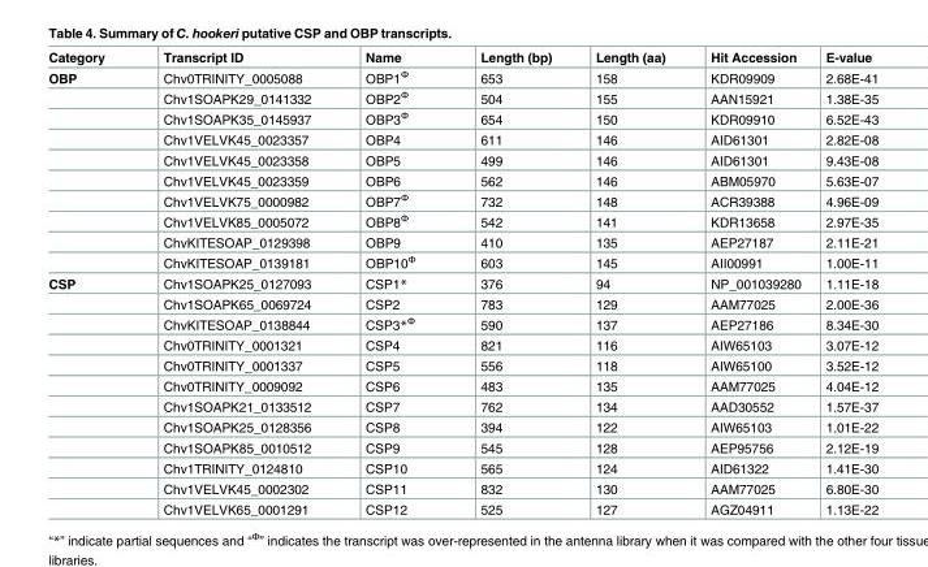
<table><thead><tr><td>Category</td><td>Transcript ID</td><td>Name</td><td>Length (bp)</td><td>Length (aa)</td><td>Hit Accession</td><td>E-value</td></tr></thead><tbody><tr><td rowspan="10">OBP</td><td>Chv0TRINITY_0005088</td><td>OBP1<sup>Φ</sup></td><td>653</td><td>158</td><td>KDR09909</td><td>2.68E-41</td></tr><tr><td>Chv1SOAPK29_0141332</td><td>OBP2<sup>Φ</sup></td><td>504</td><td>155</td><td>AAN15921</td><td>1.38E-35</td></tr><tr><td>Chv1SOAPK35_0145937</td><td>OBP3<sup>Φ</sup></td><td>654</td><td>150</td><td>KDR09910</td><td>6.52E-43</td></tr><tr><td>Chv1VELVK45_0023357</td><td>OBP4</td><td>611</td><td>146</td><td>AID61301</td><td>2.82E-08</td></tr><tr><td>Chv1VELVK45_0023358</td><td>OBP5</td><td>499</td><td>146</td><td>AID61301</td><td>9.43E-08</td></tr><tr><td>Chv1VELVK45_0023359</td><td>OBP6</td><td>562</td><td>146</td><td>ABM05970</td><td>5.63E-07</td></tr><tr><td>Chv1VELVK75_0000982</td><td>OBP7<sup>Φ</sup></td><td>732</td><td>148</td><td>ACR39388</td><td>4.96E-09</td></tr><tr><td>Chv1VELVK85_0005072</td><td>OBP8<sup>Φ</sup></td><td>542</td><td>141</td><td>KDR13658</td><td>2.97E-35</td></tr><tr><td>ChvKITESOAP_0129398</td><td>OBP9</td><td>410</td><td>135</td><td>AEP27187</td><td>2.11E-21</td></tr><tr><td>ChvKITESOAP_0139181</td><td>OBP10<sup>Φ</sup></td><td>603</td><td>145</td><td>AII00991</td><td>1.00E-11</td></tr><tr><td rowspan="12">CSP</td><td>Chv1SOAPK25_0127093</td><td>CSP1*</td><td>376</td><td>94</td><td>NP_001039280</td><td>1.11E-18</td></tr><tr><td>Chv1SOAPK65_0069724</td><td>CSP2</td><td>783</td><td>129</td><td>AAM77025</td><td>2.00E-36</td></tr><tr><td>ChvKITESOAP_0138844</td><td>CSP3*<sup>Φ</sup></td><td>590</td><td>137</td><td>AEP27186</td><td>8.34E-30</td></tr><tr><td>Chv0TRINITY_0001321</td><td>CSP4</td><td>821</td><td>116</td><td>AIW65103</td><td>3.07E-12</td></tr><tr><td>Chv0TRINITY_0001337</td><td>CSP5</td><td>556</td><td>118</td><td>AIW65100</td><td>3.52E-12</td></tr><tr><td>Chv0TRINITY_0009092</td><td>CSP6</td><td>483</td><td>135</td><td>AAM77025</td><td>4.04E-12</td></tr><tr><td>Chv1SOAPK21_0133512</td><td>CSP7</td><td>762</td><td>134</td><td>AAD30552</td><td>1.57E-37</td></tr><tr><td>Chv1SOAPK25_0128356</td><td>CSP8</td><td>394</td><td>122</td><td>AIW65103</td><td>1.01E-22</td></tr><tr><td>Chv1SOAPK85_0010512</td><td>CSP9</td><td>545</td><td>128</td><td>AEP95756</td><td>2.12E-19</td></tr><tr><td>Chv1TRINITY_0124810</td><td>CSP10</td><td>565</td><td>124</td><td>AID61322</td><td>1.41E-30</td></tr><tr><td>Chv1VELVK45_0002302</td><td>CSP11</td><td>832</td><td>130</td><td>AAM77025</td><td>6.80E-30</td></tr><tr><td>Chv1VELVK65_0001291</td><td>CSP12</td><td>525</td><td>127</td><td>AGZ04911</td><td>1.13E-22</td></tr></tbody></table>